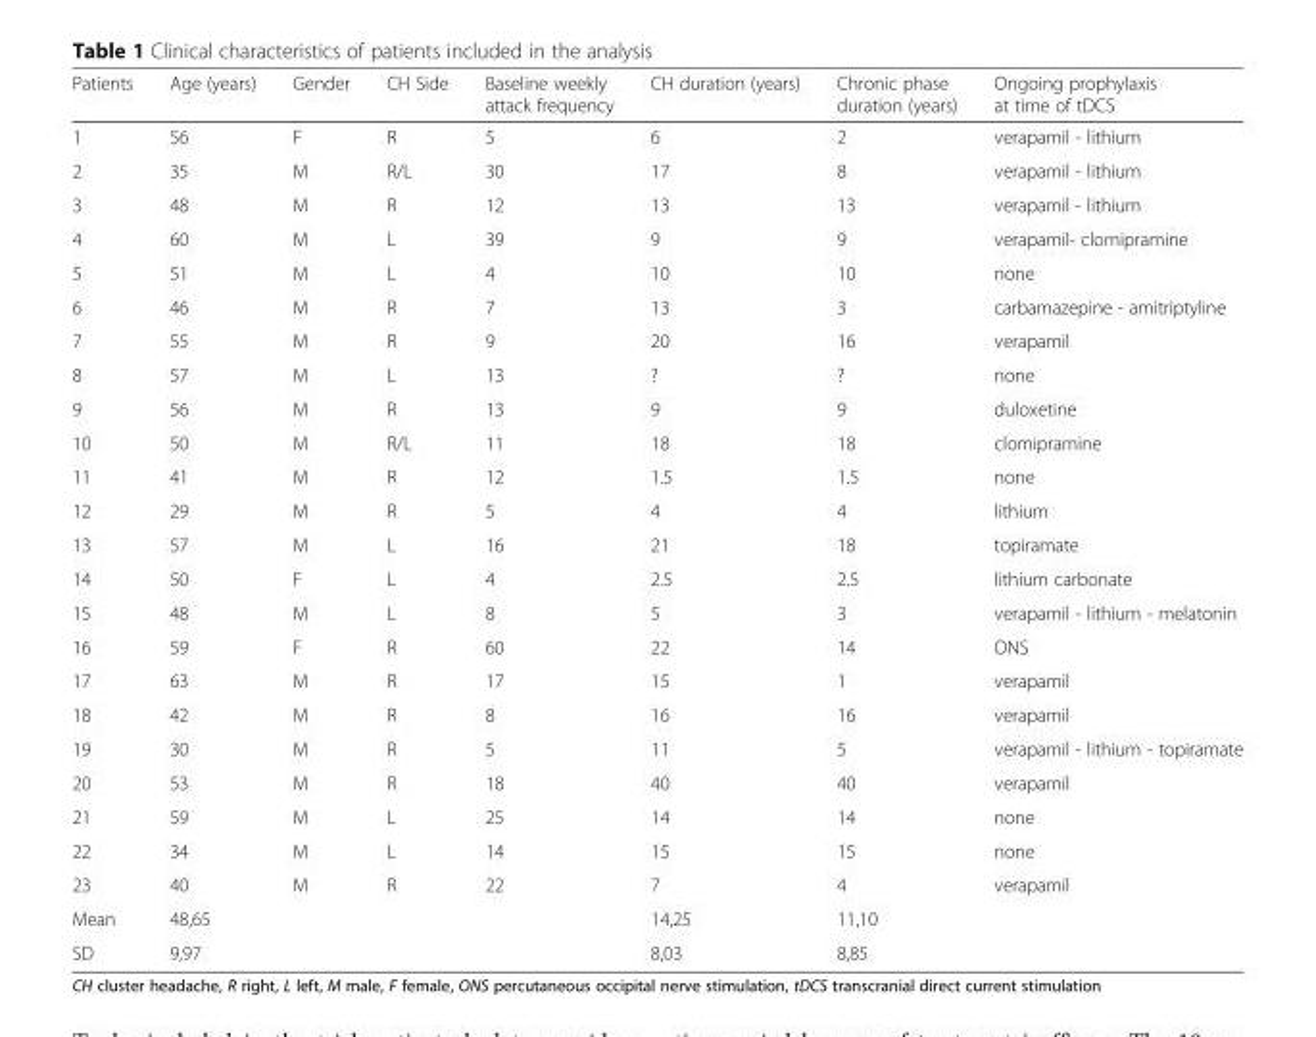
<table><thead><tr><td>Patients</td><td>Age (years)</td><td>Gender</td><td>CH Side</td><td>Baseline weekly attack frequency</td><td>CH duration (years)</td><td>Chronic phase duration (years)</td><td>Ongoing prophylaxis at time of tDCS</td></tr></thead><tbody><tr><td>1</td><td>56</td><td>F</td><td>R</td><td>5</td><td>6</td><td>2</td><td>verapamil - lithium</td></tr><tr><td>2</td><td>35</td><td>M</td><td>R/L</td><td>30</td><td>17</td><td>8</td><td>verapamil - lithium</td></tr><tr><td>3</td><td>48</td><td>M</td><td>R</td><td>12</td><td>13</td><td>13</td><td>verapamil - lithium</td></tr><tr><td>4</td><td>60</td><td>M</td><td>L</td><td>39</td><td>9</td><td>9</td><td>verapamil- clomipramine</td></tr><tr><td>5</td><td>51</td><td>M</td><td>L</td><td>4</td><td>10</td><td>10</td><td>none</td></tr><tr><td>6</td><td>46</td><td>M</td><td>R</td><td>7</td><td>13</td><td>3</td><td>carbamazepine - amitriptyline</td></tr><tr><td>7</td><td>55</td><td>M</td><td>R</td><td>9</td><td>20</td><td>16</td><td>verapamil</td></tr><tr><td>8</td><td>57</td><td>M</td><td>L</td><td>13</td><td>?</td><td>?</td><td>none</td></tr><tr><td>9</td><td>56</td><td>M</td><td>R</td><td>13</td><td>9</td><td>9</td><td>duloxetine</td></tr><tr><td>10</td><td>50</td><td>M</td><td>R/L</td><td>11</td><td>18</td><td>18</td><td>clomipramine</td></tr><tr><td>11</td><td>41</td><td>M</td><td>R</td><td>12</td><td>1.5</td><td>1.5</td><td>none</td></tr><tr><td>12</td><td>29</td><td>M</td><td>R</td><td>5</td><td>4</td><td>4</td><td>lithium</td></tr><tr><td>13</td><td>57</td><td>M</td><td>L</td><td>16</td><td>21</td><td>18</td><td>topiramate</td></tr><tr><td>14</td><td>50</td><td>F</td><td>L</td><td>4</td><td>2.5</td><td>2.5</td><td>lithium carbonate</td></tr><tr><td>15</td><td>48</td><td>M</td><td>L</td><td>8</td><td>5</td><td>3</td><td>verapamil - lithium - melatonin</td></tr><tr><td>16</td><td>59</td><td>F</td><td>R</td><td>60</td><td>22</td><td>14</td><td>ONS</td></tr><tr><td>17</td><td>63</td><td>M</td><td>R</td><td>17</td><td>15</td><td>1</td><td>verapamil</td></tr><tr><td>18</td><td>42</td><td>M</td><td>R</td><td>8</td><td>16</td><td>16</td><td>verapamil</td></tr><tr><td>19</td><td>30</td><td>M</td><td>R</td><td>5</td><td>11</td><td>5</td><td>verapamil - lithium - topiramate</td></tr><tr><td>20</td><td>53</td><td>M</td><td>R</td><td>18</td><td>40</td><td>40</td><td>verapamil</td></tr><tr><td>21</td><td>59</td><td>M</td><td>L</td><td>25</td><td>14</td><td>14</td><td>none</td></tr><tr><td>22</td><td>34</td><td>M</td><td>L</td><td>14</td><td>15</td><td>15</td><td>none</td></tr><tr><td>23</td><td>40</td><td>M</td><td>R</td><td>22</td><td>7</td><td>4</td><td>verapamil</td></tr><tr><td>Mean</td><td>48,65</td><td></td><td></td><td></td><td>14,25</td><td>11,10</td><td></td></tr><tr><td>SD</td><td>9,97</td><td></td><td></td><td></td><td>8,03</td><td>8,85</td><td></td></tr></tbody></table>